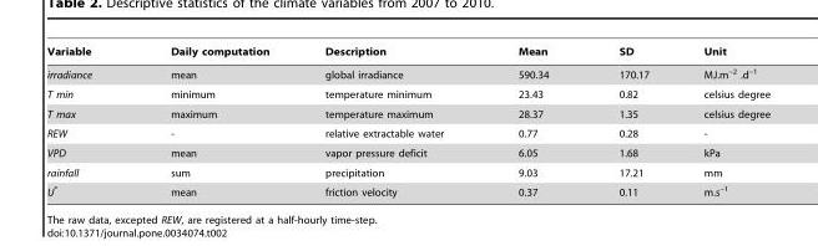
<table><thead><tr><td>Variable</td><td>Daily computation</td><td>Description</td><td>Mean</td><td>SD</td><td>Unit</td></tr></thead><tbody><tr><td>irradiance</td><td>mean</td><td>global irradiance</td><td>590.34</td><td>170.17</td><td>MJ.m<sup>–2</sup> .d<sup>–1</sup></td></tr><tr><td>T min</td><td>minimum</td><td>temperature minimum</td><td>23.43</td><td>0.82</td><td>celsius degree</td></tr><tr><td>T max</td><td>maximum</td><td>temperature maximum</td><td>28.37</td><td>1.35</td><td>celsius degree</td></tr><tr><td>REW</td><td>-</td><td>relative extractable water</td><td>0.77</td><td>0.28</td><td>-</td></tr><tr><td>VPD</td><td>mean</td><td>vapor pressure deficit</td><td>6.05</td><td>1.68</td><td>kPa</td></tr><tr><td>rainfall</td><td>sum</td><td>precipitation</td><td>9.03</td><td>17.21</td><td>mm</td></tr><tr><td>U*</td><td>mean</td><td>friction velocity</td><td>0.37</td><td>0.11</td><td>m.s<sup>–1</sup></td></tr></tbody></table>